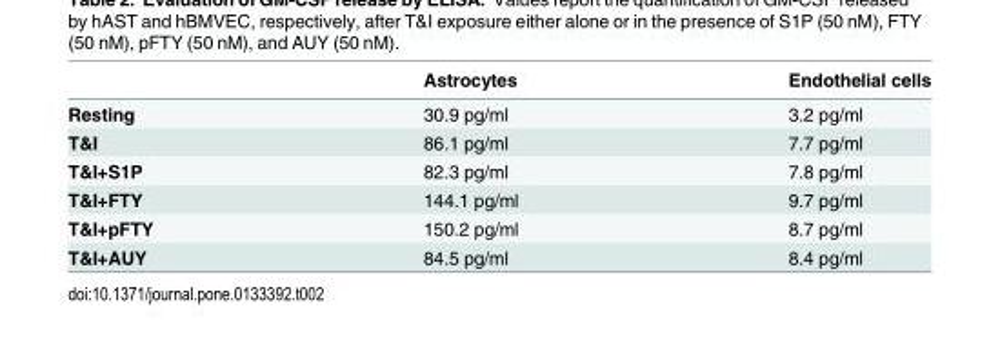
<table><thead><tr><td></td><td>Astrocytes</td><td>Endothelial cells</td></tr></thead><tbody><tr><td>Resting</td><td>30.9 pg/ml</td><td>3.2 pg/ml</td></tr><tr><td>T&amp;I</td><td>86.1 pg/ml</td><td>7.7 pg/ml</td></tr><tr><td>T&amp;I+S1P</td><td>82.3 pg/ml</td><td>7.8 pg/ml</td></tr><tr><td>T&amp;I+FTY</td><td>144.1 pg/ml</td><td>9.7 pg/ml</td></tr><tr><td>T&amp;I+pFTY</td><td>150.2 pg/ml</td><td>8.7 pg/ml</td></tr><tr><td>T&amp;I+AUY</td><td>84.5 pg/ml</td><td>8.4 pg/ml</td></tr></tbody></table>